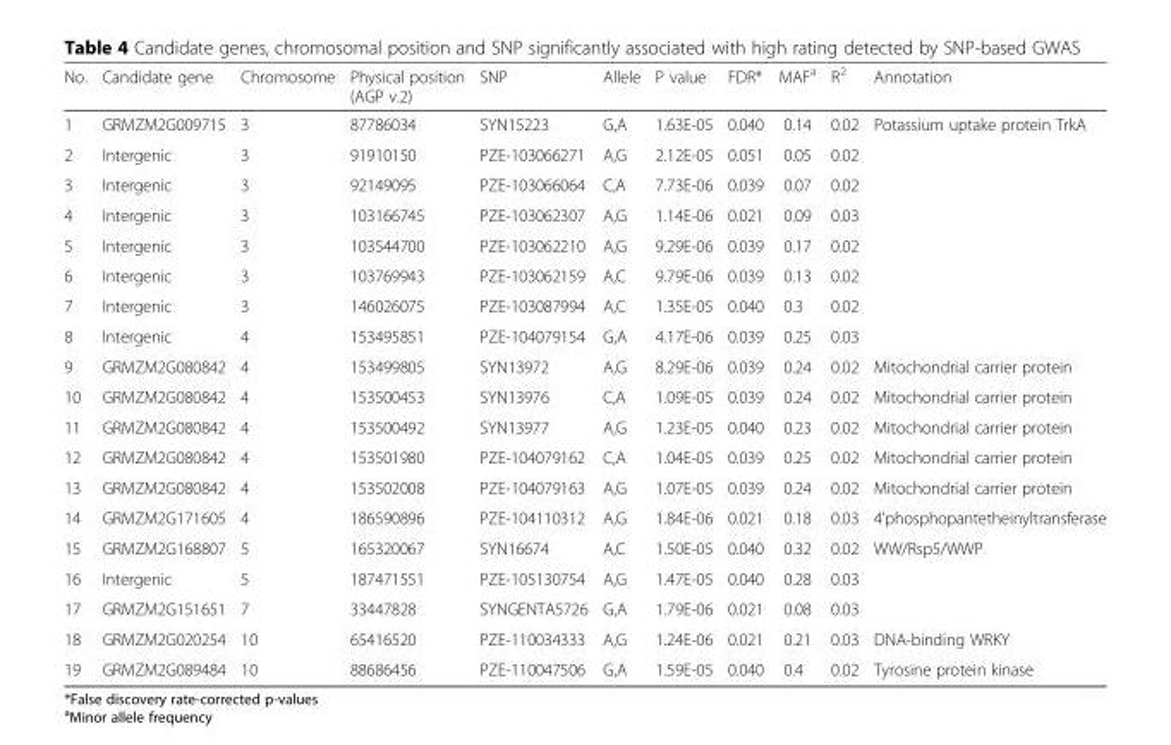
<table><thead><tr><td>No.</td><td>Candidate gene</td><td>Chromosome</td><td>Physical position (AGP v.2)</td><td>SNP</td><td>Allele</td><td>P value</td><td>FDR*</td><td>MAF<sup>a</sup></td><td>R<sup>2</sup></td><td>Annotation</td></tr></thead><tbody><tr><td>1</td><td>GRMZM2G009715</td><td>3</td><td>87786034</td><td>SYN15223</td><td>G,A</td><td>1.63E-05</td><td>0.040</td><td>0.14</td><td>0.02</td><td>Potassium uptake protein TrkA</td></tr><tr><td>2</td><td>Intergenic</td><td>3</td><td>91910150</td><td>PZE-103066271</td><td>A,G</td><td>2.12E-05</td><td>0.051</td><td>0.05</td><td>0.02</td><td></td></tr><tr><td>3</td><td>Intergenic</td><td>3</td><td>92149095</td><td>PZE-103066064</td><td>C,A</td><td>7.73E-06</td><td>0.039</td><td>0.07</td><td>0.02</td><td></td></tr><tr><td>4</td><td>Intergenic</td><td>3</td><td>103166745</td><td>PZE-103062307</td><td>A,G</td><td>1.14E-06</td><td>0.021</td><td>0.09</td><td>0.03</td><td></td></tr><tr><td>5</td><td>Intergenic</td><td>3</td><td>103544700</td><td>PZE-103062210</td><td>A,G</td><td>9.29E-06</td><td>0.039</td><td>0.17</td><td>0.02</td><td></td></tr><tr><td>6</td><td>Intergenic</td><td>3</td><td>103769943</td><td>PZE-103062159</td><td>A,C</td><td>9.79E-06</td><td>0.039</td><td>0.13</td><td>0.02</td><td></td></tr><tr><td>7</td><td>Intergenic</td><td>3</td><td>146026075</td><td>PZE-103087994</td><td>A,C</td><td>1.35E-05</td><td>0.040</td><td>0.3</td><td>0.02</td><td></td></tr><tr><td>8</td><td>Intergenic</td><td>4</td><td>153495851</td><td>PZE-104079154</td><td>G,A</td><td>4.17E-06</td><td>0.039</td><td>0.25</td><td>0.03</td><td></td></tr><tr><td>9</td><td>GRMZM2G080842</td><td>4</td><td>153499805</td><td>SYN13972</td><td>A,G</td><td>8.29E-06</td><td>0.039</td><td>0.24</td><td>0.02</td><td>Mitochondrial carrier protein</td></tr><tr><td>10</td><td>GRMZM2G080842</td><td>4</td><td>153500453</td><td>SYN13976</td><td>C,A</td><td>1.09E-05</td><td>0.039</td><td>0.24</td><td>0.02</td><td>Mitochondrial carrier protein</td></tr><tr><td>11</td><td>GRMZM2G080842</td><td>4</td><td>153500492</td><td>SYN13977</td><td>A,G</td><td>1.23E-05</td><td>0.040</td><td>0.23</td><td>0.02</td><td>Mitochondrial carrier protein</td></tr><tr><td>12</td><td>GRMZM2G080842</td><td>4</td><td>153501980</td><td>PZE-104079162</td><td>C,A</td><td>1.04E-05</td><td>0.039</td><td>0.25</td><td>0.02</td><td>Mitochondrial carrier protein</td></tr><tr><td>13</td><td>GRMZM2G080842</td><td>4</td><td>153502008</td><td>PZE-104079163</td><td>A,G</td><td>1.07E-05</td><td>0.039</td><td>0.24</td><td>0.02</td><td>Mitochondrial carrier protein</td></tr><tr><td>14</td><td>GRMZM2G171605</td><td>4</td><td>186590896</td><td>PZE-104110312</td><td>A,G</td><td>1.84E-06</td><td>0.021</td><td>0.18</td><td>0.03</td><td>4&#x27;phosphopantetheinyltransferase</td></tr><tr><td>15</td><td>GRMZM2G168807</td><td>5</td><td>165320067</td><td>SYN16674</td><td>A,C</td><td>1.50E-05</td><td>0.040</td><td>0.32</td><td>0.02</td><td>WW/Rsp5/WWP</td></tr><tr><td>16</td><td>Intergenic</td><td>5</td><td>187471551</td><td>PZE-105130754</td><td>A,G</td><td>1.47E-05</td><td>0.040</td><td>0.28</td><td>0.03</td><td></td></tr><tr><td>17</td><td>GRMZM2G151651</td><td>7</td><td>33447828</td><td>SYNGENTA5726</td><td>G,A</td><td>1.79E-06</td><td>0.021</td><td>0.08</td><td>0.03</td><td></td></tr><tr><td>18</td><td>GRMZM2G020254</td><td>10</td><td>65416520</td><td>PZE-110034333</td><td>A,G</td><td>1.24E-06</td><td>0.021</td><td>0.21</td><td>0.03</td><td>DNA-binding WRKY</td></tr><tr><td>19</td><td>GRMZM2G089484</td><td>10</td><td>88686456</td><td>PZE-110047506</td><td>G,A</td><td>1.59E-05</td><td>0.040</td><td>0.4</td><td>0.02</td><td>Tyrosine protein kinase</td></tr></tbody></table>